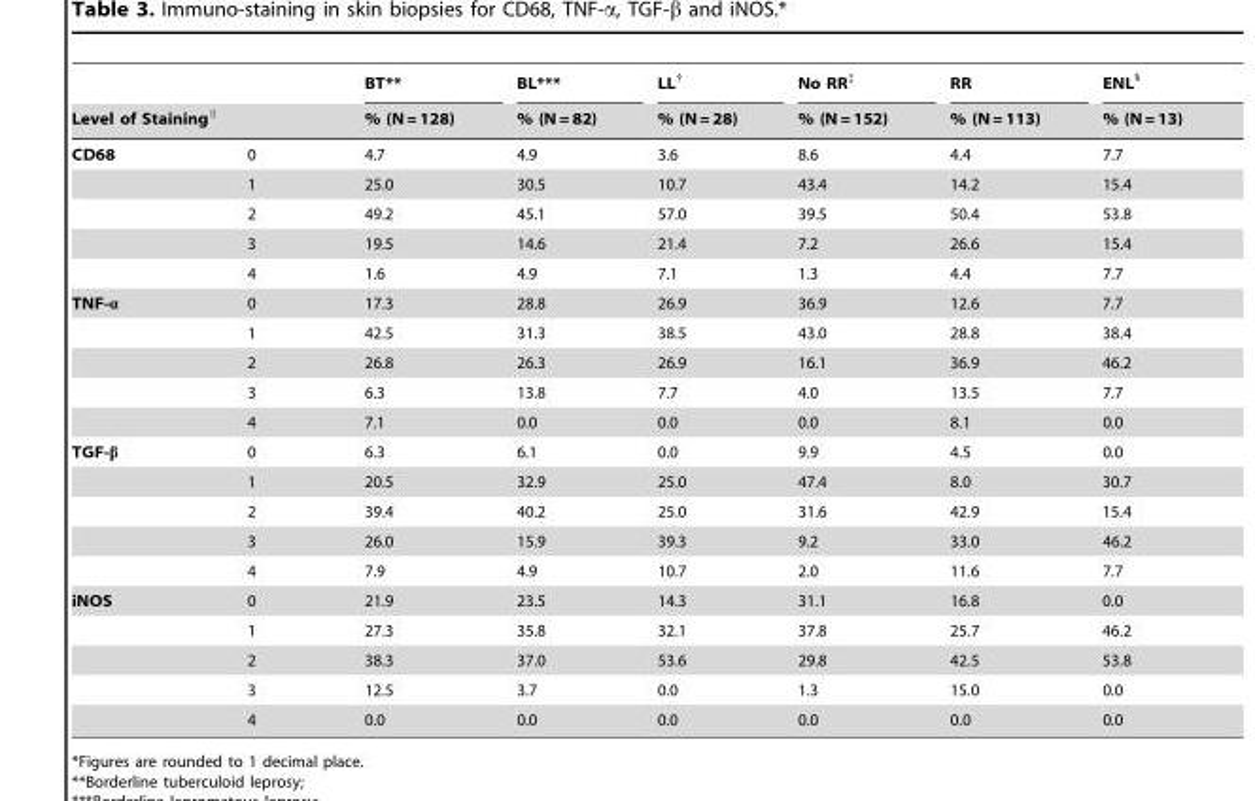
<table><thead><tr><td></td><td></td><td rowspan="2">BT** % (N = 128)</td><td rowspan="2">BL*** % (N = 82)</td><td rowspan="2">LL† % (N = 28)</td><td rowspan="2">No RR‡ % (N = 152)</td><td rowspan="2">RR % (N = 113)</td><td rowspan="2">ENL§ % (N = 13)</td></tr><tr><td colspan="2">Level of Staining∥</td></tr></thead><tbody><tr><td rowspan="5">CD68</td><td>0</td><td>4.7</td><td>4.9</td><td>3.6</td><td>8.6</td><td>4.4</td><td>7.7</td></tr><tr><td>1</td><td>25.0</td><td>30.5</td><td>10.7</td><td>43.4</td><td>14.2</td><td>15.4</td></tr><tr><td>2</td><td>49.2</td><td>45.1</td><td>57.0</td><td>39.5</td><td>50.4</td><td>53.8</td></tr><tr><td>3</td><td>19.5</td><td>14.6</td><td>21.4</td><td>7.2</td><td>26.6</td><td>15.4</td></tr><tr><td>4</td><td>1.6</td><td>4.9</td><td>7.1</td><td>1.3</td><td>4.4</td><td>7.7</td></tr><tr><td rowspan="5">TNF-α</td><td>0</td><td>17.3</td><td>28.8</td><td>26.9</td><td>36.9</td><td>12.6</td><td>7.7</td></tr><tr><td>1</td><td>42.5</td><td>31.3</td><td>38.5</td><td>43.0</td><td>28.8</td><td>38.4</td></tr><tr><td>2</td><td>26.8</td><td>26.3</td><td>26.9</td><td>16.1</td><td>36.9</td><td>46.2</td></tr><tr><td>3</td><td>6.3</td><td>13.8</td><td>7.7</td><td>4.0</td><td>13.5</td><td>7.7</td></tr><tr><td>4</td><td>7.1</td><td>0.0</td><td>0.0</td><td>0.0</td><td>8.1</td><td>0.0</td></tr><tr><td rowspan="5">TGF-β</td><td>0</td><td>6.3</td><td>6.1</td><td>0.0</td><td>9.9</td><td>4.5</td><td>0.0</td></tr><tr><td>1</td><td>20.5</td><td>32.9</td><td>25.0</td><td>47.4</td><td>8.0</td><td>30.7</td></tr><tr><td>2</td><td>39.4</td><td>40.2</td><td>25.0</td><td>31.6</td><td>42.9</td><td>15.4</td></tr><tr><td>3</td><td>26.0</td><td>15.9</td><td>39.3</td><td>9.2</td><td>33.0</td><td>46.2</td></tr><tr><td>4</td><td>7.9</td><td>4.9</td><td>10.7</td><td>2.0</td><td>11.6</td><td>7.7</td></tr><tr><td rowspan="5">iNOS</td><td>0</td><td>21.9</td><td>23.5</td><td>14.3</td><td>31.1</td><td>16.8</td><td>0.0</td></tr><tr><td>1</td><td>27.3</td><td>35.8</td><td>32.1</td><td>37.8</td><td>25.7</td><td>46.2</td></tr><tr><td>2</td><td>38.3</td><td>37.0</td><td>53.6</td><td>29.8</td><td>42.5</td><td>53.8</td></tr><tr><td>3</td><td>12.5</td><td>3.7</td><td>0.0</td><td>1.3</td><td>15.0</td><td>0.0</td></tr><tr><td>4</td><td>0.0</td><td>0.0</td><td>0.0</td><td>0.0</td><td>0.0</td><td>0.0</td></tr></tbody></table>